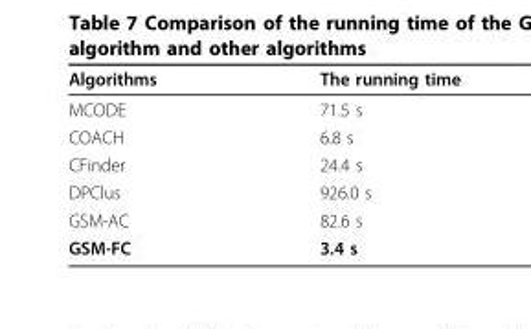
<table><thead><tr><td>Algorithms</td><td>The running time</td></tr></thead><tbody><tr><td>MCODE</td><td>71.5 s</td></tr><tr><td>COACH</td><td>6.8 s</td></tr><tr><td>CFinder</td><td>24.4 s</td></tr><tr><td>DPClus</td><td>926.0 s</td></tr><tr><td>GSM-AC</td><td>82.6 s</td></tr><tr><td>GSM-FC</td><td>3.4 s</td></tr></tbody></table>